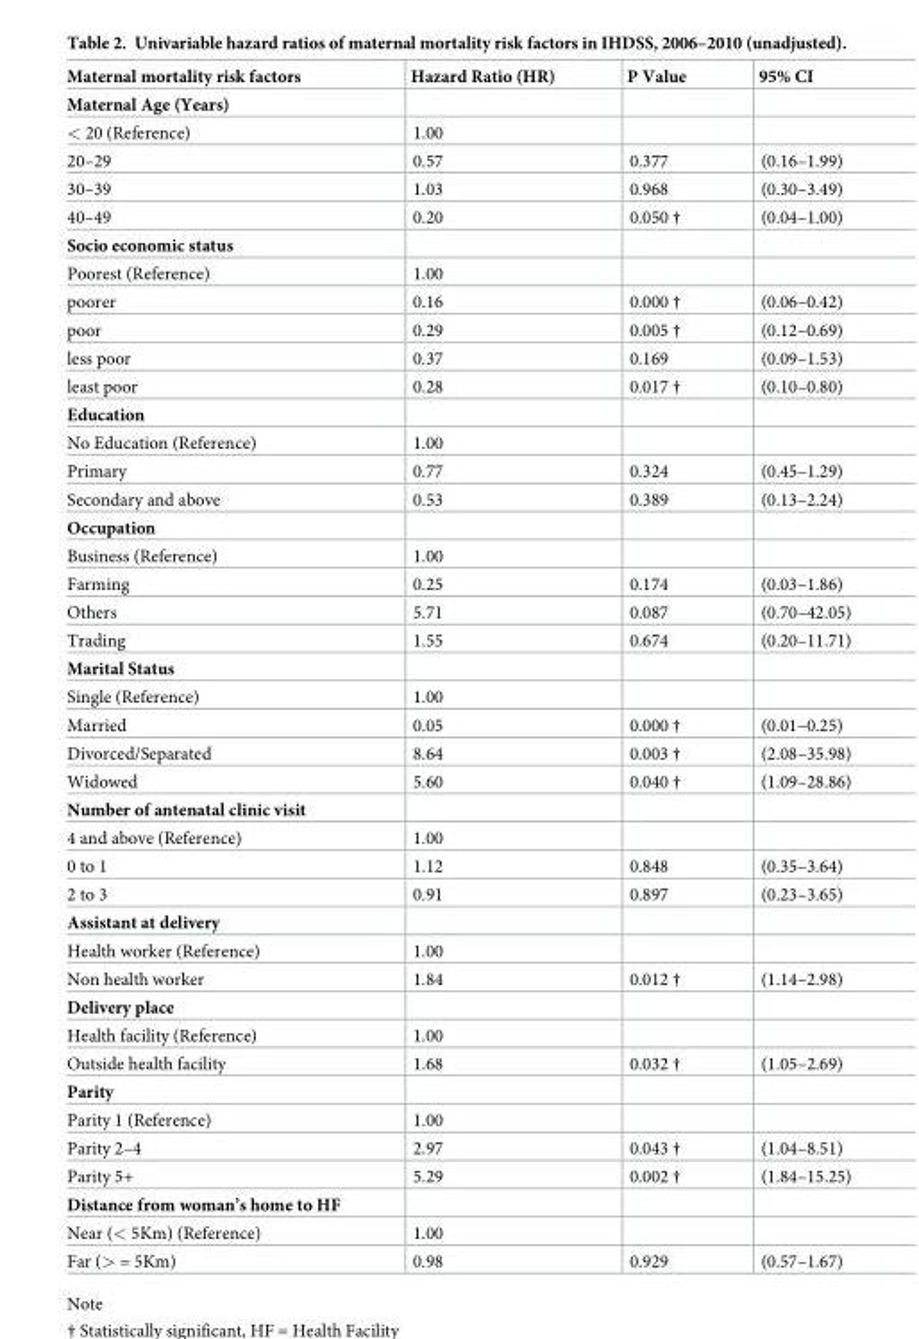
<table><thead><tr><td>Maternal mortality risk factors</td><td>Hazard Ratio (HR)</td><td>P Value</td><td>95% CI</td></tr></thead><tbody><tr><td colspan="4">Maternal Age (Years)</td></tr><tr><td>&lt; 20 (Reference)</td><td>1.00</td><td></td><td></td></tr><tr><td>20–29</td><td>0.57</td><td>0.377</td><td>(0.16–1.99)</td></tr><tr><td>30–39</td><td>1.03</td><td>0.968</td><td>(0.30–3.49)</td></tr><tr><td>40–49</td><td>0.20</td><td>0.050 †</td><td>(0.04–1.00)</td></tr><tr><td colspan="4">Socio economic status</td></tr><tr><td>Poorest (Reference)</td><td>1.00</td><td></td><td></td></tr><tr><td>poorer</td><td>0.16</td><td>0.000 †</td><td>(0.06–0.42)</td></tr><tr><td>poor</td><td>0.29</td><td>0.005 †</td><td>(0.12–0.69)</td></tr><tr><td>less poor</td><td>0.37</td><td>0.169</td><td>(0.09–1.53)</td></tr><tr><td>least poor</td><td>0.28</td><td>0.017 †</td><td>(0.10–0.80)</td></tr><tr><td colspan="4">Education</td></tr><tr><td>No Education (Reference)</td><td>1.00</td><td></td><td></td></tr><tr><td>Primary</td><td>0.77</td><td>0.324</td><td>(0.45–1.29)</td></tr><tr><td>Secondary and above</td><td>0.53</td><td>0.389</td><td>(0.13–2.24)</td></tr><tr><td colspan="4">Occupation</td></tr><tr><td>Business (Reference)</td><td>1.00</td><td></td><td></td></tr><tr><td>Farming</td><td>0.25</td><td>0.174</td><td>(0.03–1.86)</td></tr><tr><td>Others</td><td>5.71</td><td>0.087</td><td>(0.70–42.05)</td></tr><tr><td>Trading</td><td>1.55</td><td>0.674</td><td>(0.20–11.71)</td></tr><tr><td colspan="4">Marital Status</td></tr><tr><td>Single (Reference)</td><td>1.00</td><td></td><td></td></tr><tr><td>Married</td><td>0.05</td><td>0.000 †</td><td>(0.01–0.25)</td></tr><tr><td>Divorced/Separated</td><td>8.64</td><td>0.003 †</td><td>(2.08–35.98)</td></tr><tr><td>Widowed</td><td>5.60</td><td>0.040 †</td><td>(1.09–28.86)</td></tr><tr><td colspan="4">Number of antenatal clinic visit</td></tr><tr><td>4 and above (Reference)</td><td>1.00</td><td></td><td></td></tr><tr><td>0 to 1</td><td>1.12</td><td>0.848</td><td>(0.35–3.64)</td></tr><tr><td>2 to 3</td><td>0.91</td><td>0.897</td><td>(0.23–3.65)</td></tr><tr><td colspan="4">Assistant at delivery</td></tr><tr><td>Health worker (Reference)</td><td>1.00</td><td></td><td></td></tr><tr><td>Non health worker</td><td>1.84</td><td>0.012 †</td><td>(1.14–2.98)</td></tr><tr><td colspan="4">Delivery place</td></tr><tr><td>Health facility (Reference)</td><td>1.00</td><td></td><td></td></tr><tr><td>Outside health facility</td><td>1.68</td><td>0.032 †</td><td>(1.05–2.69)</td></tr><tr><td colspan="4">Parity</td></tr><tr><td>Parity 1 (Reference)</td><td>1.00</td><td></td><td></td></tr><tr><td>Parity 2–4</td><td>2.97</td><td>0.043 †</td><td>(1.04–8.51)</td></tr><tr><td>Parity 5+</td><td>5.29</td><td>0.002 †</td><td>(1.84–15.25)</td></tr><tr><td colspan="4">Distance from woman’s home to HF</td></tr><tr><td>Near (&lt; 5Km) (Reference)</td><td>1.00</td><td></td><td></td></tr><tr><td>Far (&gt; = 5Km)</td><td>0.98</td><td>0.929</td><td>(0.57–1.67)</td></tr></tbody></table>